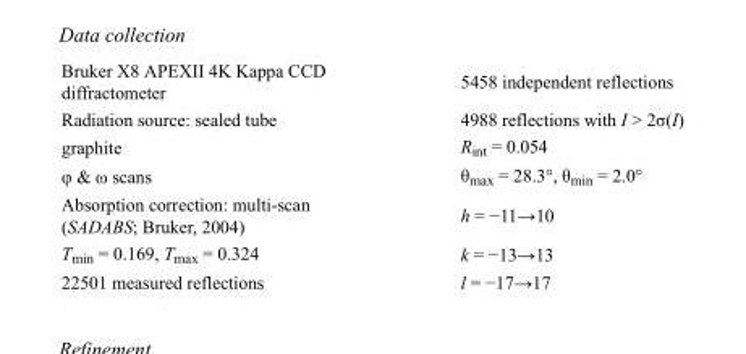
<table><tbody><tr><td>Bruker X8 APEXII 4K Kappa CCD diffractometer</td><td>5458 independent reflections</td></tr><tr><td>Radiation source: sealed tube</td><td>4988 reflections with I &gt; 2σ(I)</td></tr><tr><td>graphite</td><td>R<sub>int</sub> = 0.054</td></tr><tr><td>φ &amp; ω scans</td><td>θ<sub>max</sub> = 28.3°, θ<sub>min</sub> = 2.0°</td></tr><tr><td>Absorption correction: multi-scan (SADABS; Bruker, 2004)</td><td>h = −11→10</td></tr><tr><td>T<sub>min</sub> = 0.169, T<sub>max</sub> = 0.324</td><td>k = −13→13</td></tr><tr><td>22501 measured reflections</td><td>l = −17→17</td></tr></tbody></table>